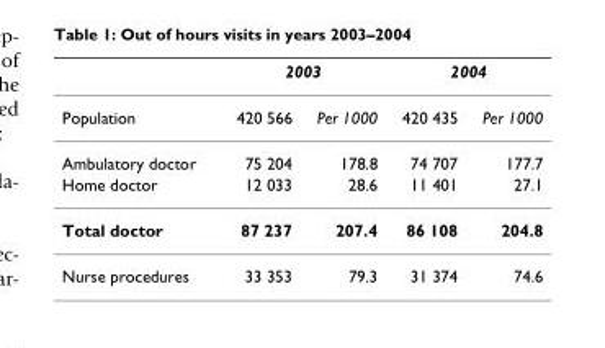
<table><thead><tr><td rowspan="2">Population</td><td colspan="2">2003</td><td colspan="2">2004</td></tr><tr><td>420 566</td><td>Per 1000</td><td>420 435</td><td>Per 1000</td></tr></thead><tbody><tr><td>Ambulatory doctor</td><td>75 204</td><td>178.8</td><td>74 707</td><td>177.7</td></tr><tr><td>Home doctor</td><td>12 033</td><td>28.6</td><td>11 401</td><td>27.1</td></tr><tr><td>Total doctor</td><td>87 237</td><td>207.4</td><td>86 108</td><td>204.8</td></tr><tr><td>Nurse procedures</td><td>33 353</td><td>79.3</td><td>31 374</td><td>74.6</td></tr></tbody></table>